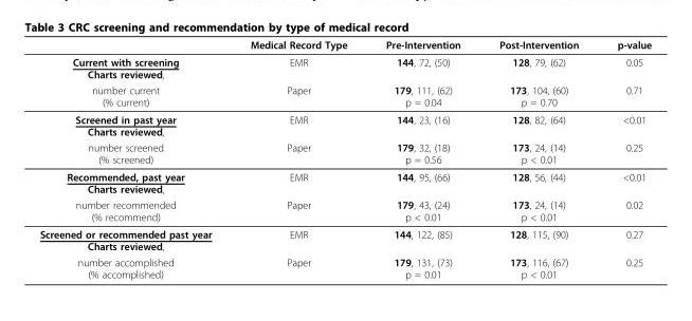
<table><thead><tr><td></td><td>Medical Record Type</td><td>Pre-Intervention</td><td>Post-Intervention</td><td>p-value</td></tr></thead><tbody><tr><td>Current with screening Charts reviewed,</td><td>EMR</td><td>144, 72, (50)</td><td>128, 79, (62)</td><td>0.05</td></tr><tr><td>number current (% current)</td><td>Paper</td><td>179, 111, (62) p = 0.04</td><td>173, 104, (60) p = 0.70</td><td>0.71</td></tr><tr><td>Screened in past year Charts reviewed,</td><td>EMR</td><td>144, 23, (16)</td><td>128, 82, (64)</td><td>&lt;0.01</td></tr><tr><td>number screened (% screened)</td><td>Paper</td><td>179, 32, (18) p = 0.56</td><td>173, 24, (14) p &lt; 0.01</td><td>0.25</td></tr><tr><td>Recommended, past year Charts reviewed,</td><td>EMR</td><td>144, 95, (66)</td><td>128, 56, (44)</td><td>&lt;0.01</td></tr><tr><td>number recommended (% recommend)</td><td>Paper</td><td>179, 43, (24) p &lt; 0.01</td><td>173, 24, (14) p &lt; 0.01</td><td>0.02</td></tr><tr><td>Screened or recommended past year Charts reviewed,</td><td>EMR</td><td>144, 122, (85)</td><td>128, 115, (90)</td><td>0.27</td></tr><tr><td>number accomplished (% accomplished)</td><td>Paper</td><td>179, 131, (73) p = 0.01</td><td>173, 116, (67) p &lt; 0.01</td><td>0.25</td></tr></tbody></table>